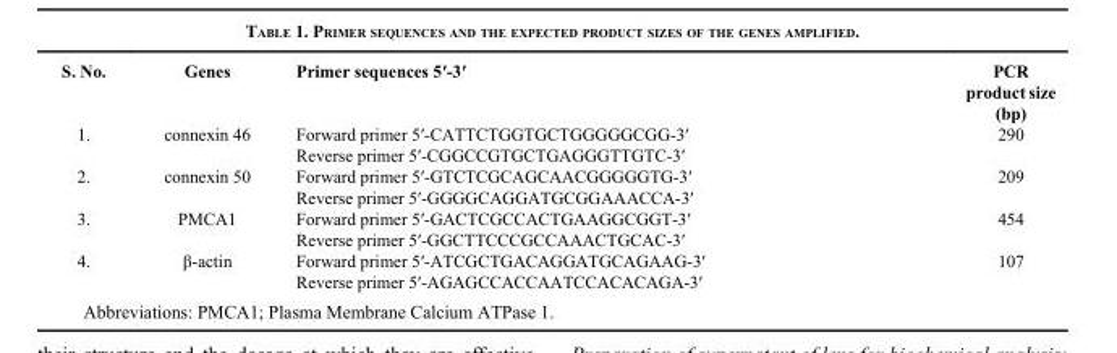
<table><thead><tr><td>S. No.</td><td>Genes</td><td>Primer sequences 5′-3′</td><td>PCR product size (bp)</td></tr></thead><tbody><tr><td rowspan="2">1.</td><td>connexin 46</td><td>Forward primer 5′-CATTCTGGTGCTGGGGGCGG-3′</td><td>290</td></tr><tr><td></td><td>Reverse primer 5′-CGGCCGTGCTGAGGGTTGTC-3′</td><td></td></tr><tr><td rowspan="2">2.</td><td>connexin 50</td><td>Forward primer 5′-GTCTCGCAGCAACGGGGGTG-3′</td><td>209</td></tr><tr><td></td><td>Reverse primer 5′-GGGGCAGGATGCGGAAACCA-3′</td><td></td></tr><tr><td rowspan="2">3.</td><td>PMCA1</td><td>Forward primer 5′-GACTCGCCACTGAAGGCGGT-3′</td><td>454</td></tr><tr><td></td><td>Reverse primer 5′-GGCTTCCCGCCAAACTGCAC-3′</td><td></td></tr><tr><td rowspan="2">4.</td><td>β-actin</td><td>Forward primer 5′-ATCGCTGACAGGATGCAGAAG-3′</td><td>107</td></tr><tr><td></td><td>Reverse primer 5′-AGAGCCACCAATCCACACAGA-3′</td><td></td></tr></tbody></table>